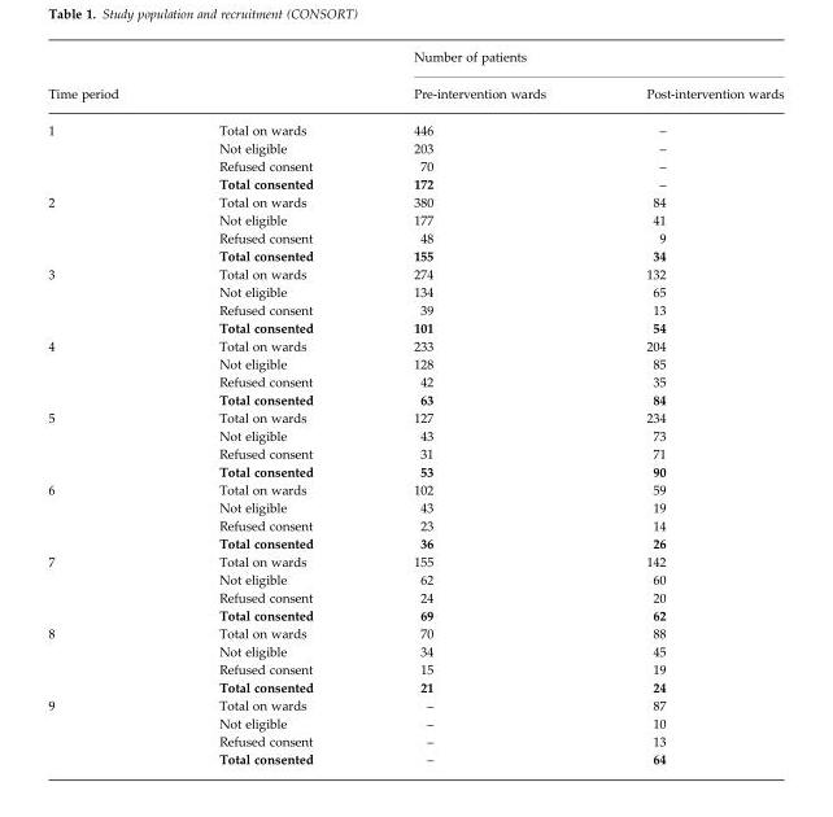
<table><thead><tr><td rowspan="2">Time period</td><td rowspan="2"></td><td colspan="2">Number of patients</td></tr><tr><td>Pre-intervention wards</td><td>Post-intervention wards</td></tr></thead><tbody><tr><td rowspan="4">1</td><td>Total on wards</td><td>446</td><td>–</td></tr><tr><td>Not eligible</td><td>203</td><td>–</td></tr><tr><td>Refused consent</td><td>70</td><td>–</td></tr><tr><td>Total consented</td><td>172</td><td>–</td></tr><tr><td rowspan="4">2</td><td>Total on wards</td><td>380</td><td>84</td></tr><tr><td>Not eligible</td><td>177</td><td>41</td></tr><tr><td>Refused consent</td><td>48</td><td>9</td></tr><tr><td>Total consented</td><td>155</td><td>34</td></tr><tr><td rowspan="4">3</td><td>Total on wards</td><td>274</td><td>132</td></tr><tr><td>Not eligible</td><td>134</td><td>65</td></tr><tr><td>Refused consent</td><td>39</td><td>13</td></tr><tr><td>Total consented</td><td>101</td><td>54</td></tr><tr><td rowspan="4">4</td><td>Total on wards</td><td>233</td><td>204</td></tr><tr><td>Not eligible</td><td>128</td><td>85</td></tr><tr><td>Refused consent</td><td>42</td><td>35</td></tr><tr><td>Total consented</td><td>63</td><td>84</td></tr><tr><td rowspan="4">5</td><td>Total on wards</td><td>127</td><td>234</td></tr><tr><td>Not eligible</td><td>43</td><td>73</td></tr><tr><td>Refused consent</td><td>31</td><td>71</td></tr><tr><td>Total consented</td><td>53</td><td>90</td></tr><tr><td rowspan="4">6</td><td>Total on wards</td><td>102</td><td>59</td></tr><tr><td>Not eligible</td><td>43</td><td>19</td></tr><tr><td>Refused consent</td><td>23</td><td>14</td></tr><tr><td>Total consented</td><td>36</td><td>26</td></tr><tr><td rowspan="4">7</td><td>Total on wards</td><td>155</td><td>142</td></tr><tr><td>Not eligible</td><td>62</td><td>60</td></tr><tr><td>Refused consent</td><td>24</td><td>20</td></tr><tr><td>Total consented</td><td>69</td><td>62</td></tr><tr><td rowspan="4">8</td><td>Total on wards</td><td>70</td><td>88</td></tr><tr><td>Not eligible</td><td>34</td><td>45</td></tr><tr><td>Refused consent</td><td>15</td><td>19</td></tr><tr><td>Total consented</td><td>21</td><td>24</td></tr><tr><td rowspan="4">9</td><td>Total on wards</td><td>–</td><td>87</td></tr><tr><td>Not eligible</td><td>–</td><td>10</td></tr><tr><td>Refused consent</td><td>–</td><td>13</td></tr><tr><td>Total consented</td><td>–</td><td>64</td></tr></tbody></table>